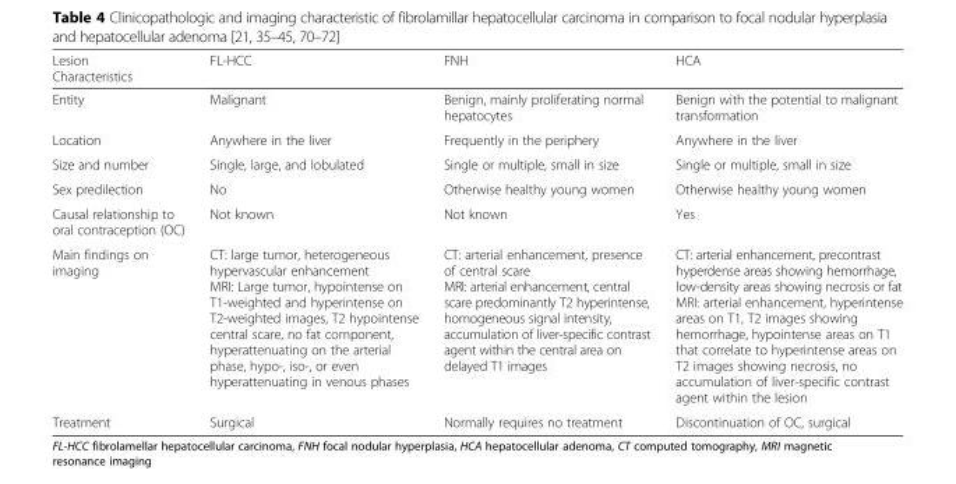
<table><thead><tr><td>Lesion Characteristics</td><td>FL-HCC</td><td>FNH</td><td>HCA</td></tr></thead><tbody><tr><td>Entity</td><td>Malignant</td><td>Benign, mainly proliferating normal hepatocytes</td><td>Benign with the potential to malignant transformation</td></tr><tr><td>Location</td><td>Anywhere in the liver</td><td>Frequently in the periphery</td><td>Anywhere in the liver</td></tr><tr><td>Size and number</td><td>Single, large, and lobulated</td><td>Single or multiple, small in size</td><td>Single or multiple, small in size</td></tr><tr><td>Sex predilection</td><td>No</td><td>Otherwise healthy young women</td><td>Otherwise healthy young women</td></tr><tr><td>Causal relationship to oral contraception (OC)</td><td>Not known</td><td>Not known</td><td>Yes</td></tr><tr><td>Main findings on imaging</td><td>CT: large tumor, heterogeneous hypervascular enhancement MRI: Large tumor, hypointense on T1-weighted and hyperintense on T2-weighted images, T2 hypointense central scare, no fat component, hyperattenuating on the arterial phase, hypo-, iso-, or even hyperattenuating in venous phases</td><td>CT: arterial enhancement, presence of central scare MRI: arterial enhancement, central scare predominantly T2 hyperintense, homogeneous signal intensity, accumulation of liver-specific contrast agent within the central area on delayed T1 images</td><td>CT: arterial enhancement, precontrast hyperdense areas showing hemorrhage, low-density areas showing necrosis or fat MRI: arterial enhancement, hyperintense areas on T1, T2 images showing hemorrhage, hypointense areas on T1 that correlate to hyperintense areas on T2 images showing necrosis, no accumulation of liver-specific contrast agent within the lesion</td></tr><tr><td>Treatment</td><td>Surgical</td><td>Normally requires no treatment</td><td>Discontinuation of OC, surgical</td></tr></tbody></table>